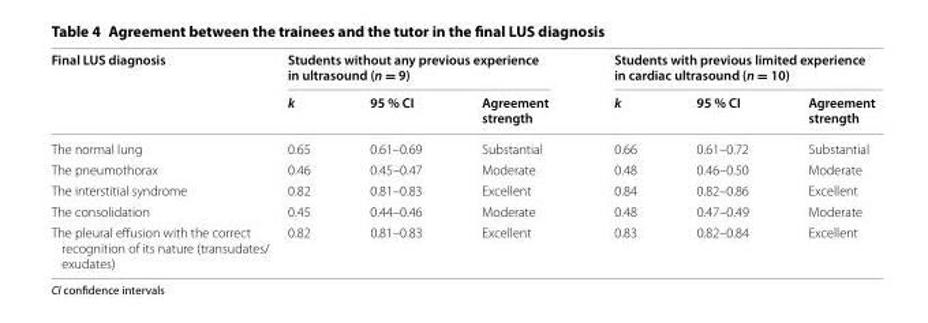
<table><thead><tr><td rowspan="2">Final LUS diagnosis</td><td colspan="3">Students without any previous experience in ultrasound (n = 9)</td><td colspan="3">Students with previous limited experience in cardiac ultrasound (n = 10)</td></tr><tr><td>k</td><td>95 % CI</td><td>Agreement strength</td><td>k</td><td>95 % CI</td><td>Agreement strength</td></tr></thead><tbody><tr><td>The normal lung</td><td>0.65</td><td>0.61–0.69</td><td>Substantial</td><td>0.66</td><td>0.61–0.72</td><td>Substantial</td></tr><tr><td>The pneumothorax</td><td>0.46</td><td>0.45–0.47</td><td>Moderate</td><td>0.48</td><td>0.46–0.50</td><td>Moderate</td></tr><tr><td>The interstitial syndrome</td><td>0.82</td><td>0.81–0.83</td><td>Excellent</td><td>0.84</td><td>0.82–0.86</td><td>Excellent</td></tr><tr><td>The consolidation</td><td>0.45</td><td>0.44–0.46</td><td>Moderate</td><td>0.48</td><td>0.47–0.49</td><td>Moderate</td></tr><tr><td>The pleural effusion with the correct recognition of its nature (transudates/ exudates)</td><td>0.82</td><td>0.81–0.83</td><td>Excellent</td><td>0.83</td><td>0.82–0.84</td><td>Excellent</td></tr></tbody></table>